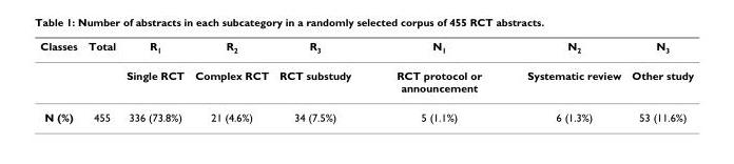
<table><thead><tr><td>Classes</td><td>Total</td><td>R<sub>1</sub></td><td>R<sub>2</sub></td><td>R<sub>3</sub></td><td>N<sub>1</sub></td><td>N<sub>2</sub></td><td>N<sub>3</sub></td></tr></thead><tbody><tr><td></td><td></td><td>Single RCT</td><td>Complex RCT</td><td>RCT substudy</td><td>RCT protocol or announcement</td><td>Systematic review</td><td>Other study</td></tr><tr><td>N (%)</td><td>455</td><td>336 (73.8%)</td><td>21 (4.6%)</td><td>34 (7.5%)</td><td>5 (1.1%)</td><td>6 (1.3%)</td><td>53 (11.6%)</td></tr></tbody></table>